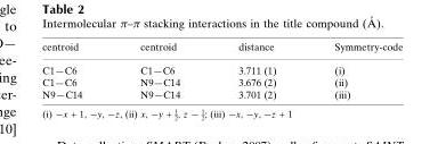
<table><thead><tr><td>centroid</td><td>centroid</td><td>distance</td><td>Symmetry-code</td></tr></thead><tbody><tr><td>C1—C6</td><td>C1—C6</td><td>3.711 (1)</td><td>(i)</td></tr><tr><td>C1—C6</td><td>N9—C14</td><td>3.676 (2)</td><td>(ii)</td></tr><tr><td>N9—C14</td><td>N9—C14</td><td>3.701 (2)</td><td>(iii)</td></tr></tbody></table>